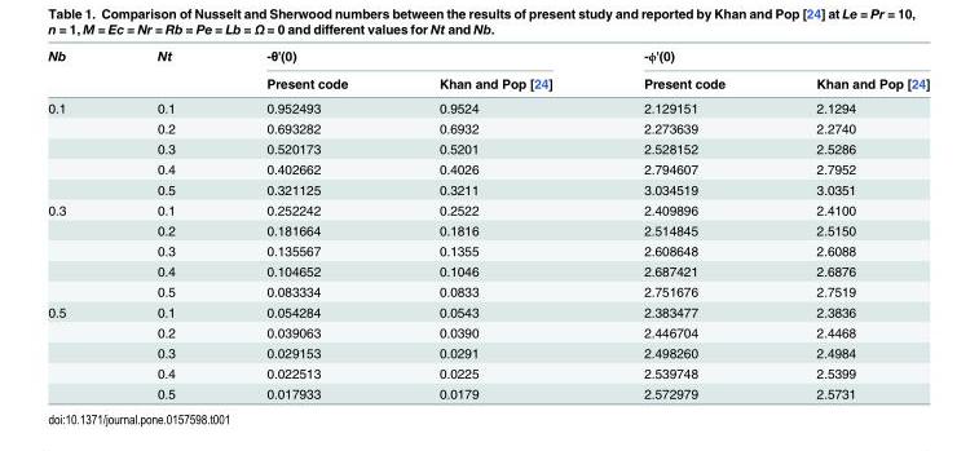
<table><thead><tr><td rowspan="2">Nb</td><td rowspan="2">Nt</td><td colspan="2">-θ&#x27;(0)</td><td colspan="2">-ϕ&#x27;(0)</td></tr><tr><td>Present code</td><td>Khan and Pop [24]</td><td>Present code</td><td>Khan and Pop [24]</td></tr></thead><tbody><tr><td rowspan="5">0.1</td><td>0.1</td><td>0.952493</td><td>0.9524</td><td>2.129151</td><td>2.1294</td></tr><tr><td>0.2</td><td>0.693282</td><td>0.6932</td><td>2.273639</td><td>2.2740</td></tr><tr><td>0.3</td><td>0.520173</td><td>0.5201</td><td>2.528152</td><td>2.5286</td></tr><tr><td>0.4</td><td>0.402662</td><td>0.4026</td><td>2.794607</td><td>2.7952</td></tr><tr><td>0.5</td><td>0.321125</td><td>0.3211</td><td>3.034519</td><td>3.0351</td></tr><tr><td rowspan="5">0.3</td><td>0.1</td><td>0.252242</td><td>0.2522</td><td>2.409896</td><td>2.4100</td></tr><tr><td>0.2</td><td>0.181664</td><td>0.1816</td><td>2.514845</td><td>2.5150</td></tr><tr><td>0.3</td><td>0.135567</td><td>0.1355</td><td>2.608648</td><td>2.6088</td></tr><tr><td>0.4</td><td>0.104652</td><td>0.1046</td><td>2.687421</td><td>2.6876</td></tr><tr><td>0.5</td><td>0.083334</td><td>0.0833</td><td>2.751676</td><td>2.7519</td></tr><tr><td rowspan="5">0.5</td><td>0.1</td><td>0.054284</td><td>0.0543</td><td>2.383477</td><td>2.3836</td></tr><tr><td>0.2</td><td>0.039063</td><td>0.0390</td><td>2.446704</td><td>2.4468</td></tr><tr><td>0.3</td><td>0.029153</td><td>0.0291</td><td>2.498260</td><td>2.4984</td></tr><tr><td>0.4</td><td>0.022513</td><td>0.0225</td><td>2.539748</td><td>2.5399</td></tr><tr><td>0.5</td><td>0.017933</td><td>0.0179</td><td>2.572979</td><td>2.5731</td></tr></tbody></table>